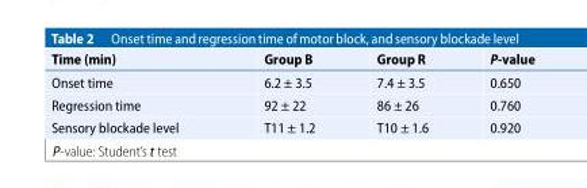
<table><thead><tr><td>Time (min)</td><td>Group B</td><td>Group R</td><td>P-value</td></tr></thead><tbody><tr><td>Onset time</td><td>6.2 ± 3.5</td><td>7.4 ± 3.5</td><td>0.650</td></tr><tr><td>Regression time</td><td>92 ± 22</td><td>86 ± 26</td><td>0.760</td></tr><tr><td>Sensory blockade level</td><td>T11 ± 1.2</td><td>T10 ± 1.6</td><td>0.920</td></tr></tbody></table>